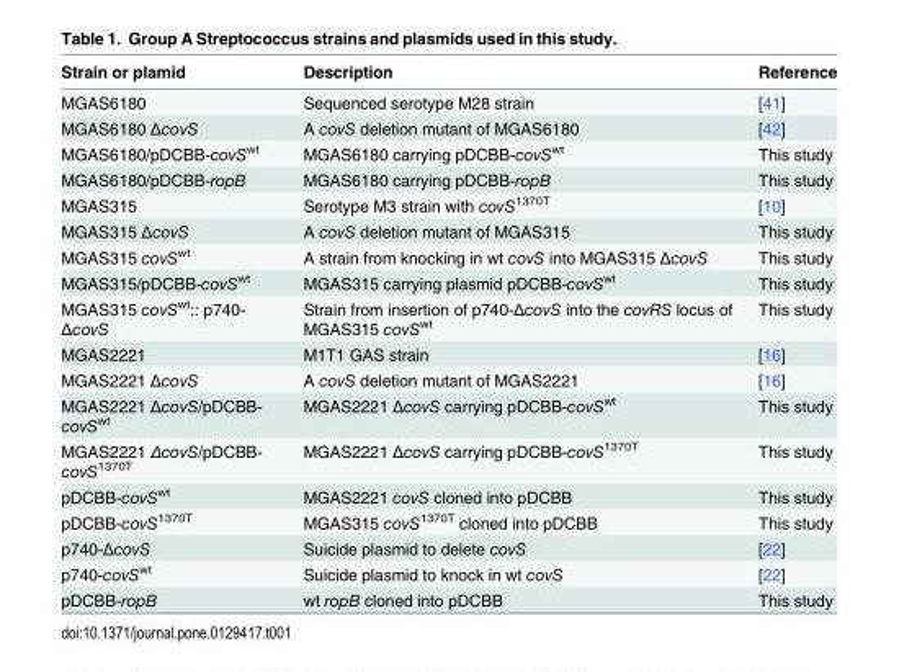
<table><thead><tr><td>Strain or plamid</td><td>Description</td><td>Reference</td></tr></thead><tbody><tr><td>MGAS6180</td><td>Sequenced serotype M28 strain</td><td>[41]</td></tr><tr><td>MGAS6180 ΔcovS</td><td>A covS deletion mutant of MGAS6180</td><td>[42]</td></tr><tr><td>MGAS6180/pDCBB-covS<sup>wt</sup></td><td>MGAS6180 carrying pDCBB-covS<sup>wt</sup></td><td>This study</td></tr><tr><td>MGAS6180/pDCBB-ropB</td><td>MGAS6180 carrying pDCBB-ropB</td><td>This study</td></tr><tr><td>MGAS315</td><td>Serotype M3 strain with covS<sup>1370T</sup></td><td>[10]</td></tr><tr><td>MGAS315 ΔcovS</td><td>A covS deletion mutant of MGAS315</td><td>This study</td></tr><tr><td>MGAS315 covS<sup>wt</sup></td><td>A strain from knocking in wt covS into MGAS315 ΔcovS</td><td>This study</td></tr><tr><td>MGAS315/pDCBB-covS<sup>wt</sup></td><td>MGAS315 carrying plasmid pDCBB-covS<sup>wt</sup></td><td>This study</td></tr><tr><td>MGAS315 covS<sup>wt</sup>:: p740- ΔcovS</td><td>Strain from insertion of p740-ΔcovS into the covRS locus of MGAS315 covS<sup>wt</sup></td><td>This study</td></tr><tr><td>MGAS2221</td><td>M1T1 GAS strain</td><td>[16]</td></tr><tr><td>MGAS2221 ΔcovS</td><td>A covS deletion mutant of MGAS2221</td><td>[16]</td></tr><tr><td>MGAS2221 ΔcovS/pDCBB- covS<sup>wt</sup></td><td>MGAS2221 ΔcovS carrying pDCBB-covS<sup>wt</sup></td><td>This study</td></tr><tr><td>MGAS2221 ΔcovS/pDCBB- covS<sup>1370T</sup></td><td>MGAS2221 ΔcovS carrying pDCBB-covS<sup>1370T</sup></td><td>This study</td></tr><tr><td>pDCBB-covS<sup>wt</sup></td><td>MGAS2221 covS cloned into pDCBB</td><td>This study</td></tr><tr><td>pDCBB-covS<sup>1370T</sup></td><td>MGAS315 covS<sup>1370T</sup> cloned into pDCBB</td><td>This study</td></tr><tr><td>p740-ΔcovS</td><td>Suicide plasmid to delete covS</td><td>[22]</td></tr><tr><td>p740-covS<sup>wt</sup></td><td>Suicide plasmid to knock in wt covS</td><td>[22]</td></tr><tr><td>pDCBB-ropB</td><td>wt ropB cloned into pDCBB</td><td>This study</td></tr></tbody></table>